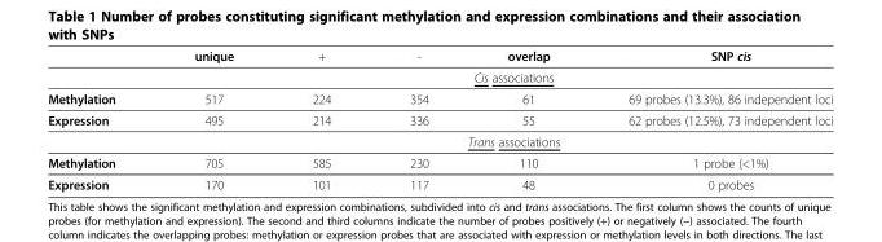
<table><thead><tr><td></td><td>unique</td><td>+</td><td>-</td><td>overlap</td><td>SNP cis</td></tr></thead><tbody><tr><td></td><td></td><td></td><td></td><td>Cis associations</td><td></td></tr><tr><td>Methylation</td><td>517</td><td>224</td><td>354</td><td>61</td><td>69 probes (13.3%), 86 independent loci</td></tr><tr><td rowspan="2">Expression</td><td>495</td><td>214</td><td>336</td><td>55</td><td>62 probes (12.5%), 73 independent loci</td></tr><tr><td></td><td></td><td></td><td>Trans associations</td><td></td></tr><tr><td>Methylation</td><td>705</td><td>585</td><td>230</td><td>110</td><td>1 probe (&lt;1%)</td></tr><tr><td>Expression</td><td>170</td><td>101</td><td>117</td><td>48</td><td>0 probes</td></tr></tbody></table>